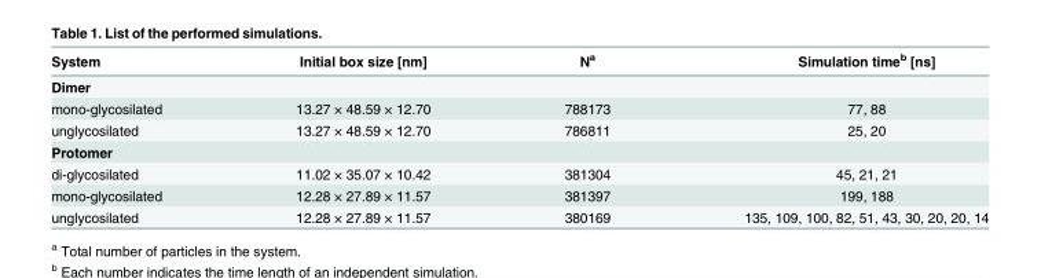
<table><thead><tr><td>System</td><td>Initial box size [nm]</td><td>N<sup>a</sup></td><td>Simulation time<sup>b</sup> [ns]</td></tr></thead><tbody><tr><td colspan="4">Dimer</td></tr><tr><td>mono-glycosilated</td><td>13.27 × 48.59 × 12.70</td><td>788173</td><td>77, 88</td></tr><tr><td>unglycosilated</td><td>13.27 × 48.59 × 12.70</td><td>786811</td><td>25, 20</td></tr><tr><td colspan="4">Protomer</td></tr><tr><td>di-glycosilated</td><td>11.02 × 35.07 × 10.42</td><td>381304</td><td>45, 21, 21</td></tr><tr><td>mono-glycosilated</td><td>12.28 × 27.89 × 11.57</td><td>381397</td><td>199, 188</td></tr><tr><td>unglycosilated</td><td>12.28 × 27.89 × 11.57</td><td>380169</td><td>135, 109, 100, 82, 51, 43, 30, 20, 20, 14</td></tr></tbody></table>